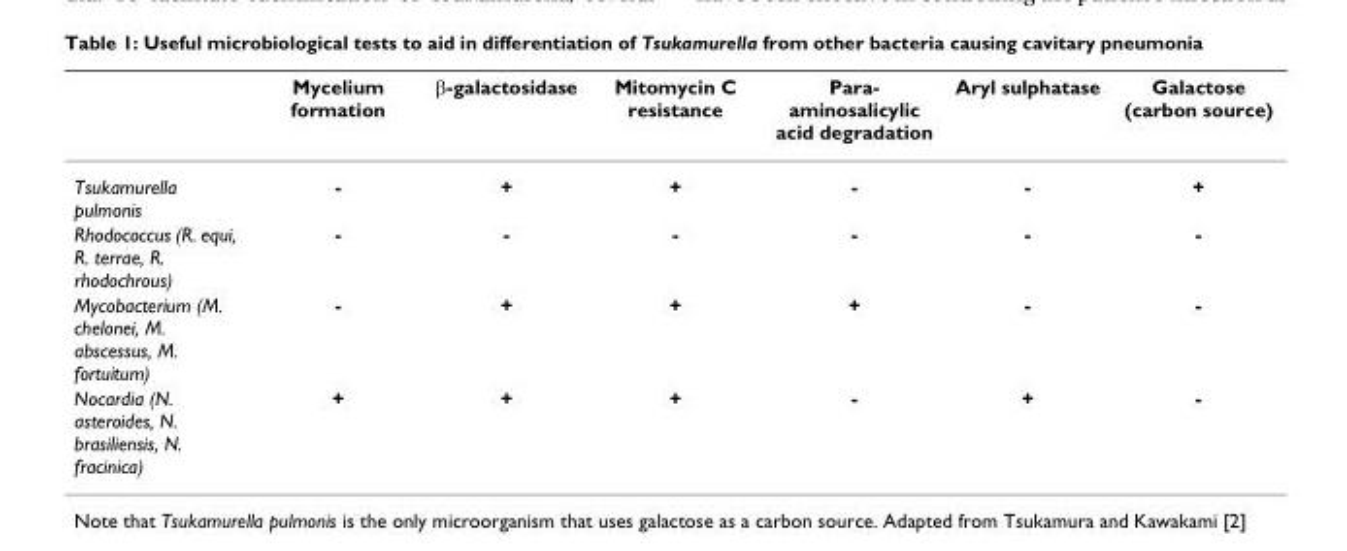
<table><thead><tr><td></td><td>Mycelium formation</td><td>β-galactosidase</td><td>Mitomycin C resistance</td><td>Para- aminosalicylic acid degradation</td><td>Aryl sulphatase</td><td>Galactose (carbon source)</td></tr></thead><tbody><tr><td>Tsukamurella pulmonis</td><td>-</td><td>+</td><td>+</td><td>-</td><td>-</td><td>+</td></tr><tr><td>Rhodococcus (R. equi, R. terrae, R. rhodochrous)</td><td>-</td><td>-</td><td>-</td><td>-</td><td>-</td><td>-</td></tr><tr><td>Mycobacterium (M. chelonei, M. abscessus, M. fortuitum)</td><td>-</td><td>+</td><td>+</td><td>+</td><td>-</td><td>-</td></tr><tr><td>Nocardia (N. asteroides, N. brasiliensis, N. fracinica)</td><td>+</td><td>+</td><td>+</td><td>-</td><td>+</td><td>-</td></tr></tbody></table>